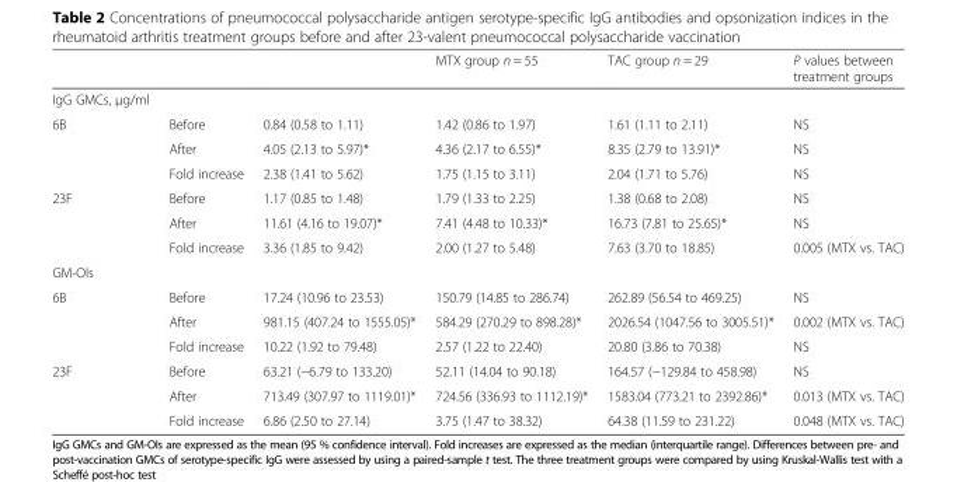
<table><thead><tr><td></td><td></td><td></td><td>MTX group n = 55</td><td>TAC group n = 29</td><td>P values between treatment groups</td></tr></thead><tbody><tr><td colspan="6">IgG GMCs, μg/ml</td></tr><tr><td rowspan="3">6B</td><td>Before</td><td>0.84 (0.58 to 1.11)</td><td>1.42 (0.86 to 1.97)</td><td>1.61 (1.11 to 2.11)</td><td>NS</td></tr><tr><td>After</td><td>4.05 (2.13 to 5.97)*</td><td>4.36 (2.17 to 6.55)*</td><td>8.35 (2.79 to 13.91)*</td><td>NS</td></tr><tr><td>Fold increase</td><td>2.38 (1.41 to 5.62)</td><td>1.75 (1.15 to 3.11)</td><td>2.04 (1.71 to 5.76)</td><td>NS</td></tr><tr><td rowspan="3">23F</td><td>Before</td><td>1.17 (0.85 to 1.48)</td><td>1.79 (1.33 to 2.25)</td><td>1.38 (0.68 to 2.08)</td><td>NS</td></tr><tr><td>After</td><td>11.61 (4.16 to 19.07)*</td><td>7.41 (4.48 to 10.33)*</td><td>16.73 (7.81 to 25.65)*</td><td>NS</td></tr><tr><td>Fold increase</td><td>3.36 (1.85 to 9.42)</td><td>2.00 (1.27 to 5.48)</td><td>7.63 (3.70 to 18.85)</td><td>0.005 (MTX vs. TAC)</td></tr><tr><td colspan="6">GM-OIs</td></tr><tr><td rowspan="3">6B</td><td>Before</td><td>17.24 (10.96 to 23.53)</td><td>150.79 (14.85 to 286.74)</td><td>262.89 (56.54 to 469.25)</td><td>NS</td></tr><tr><td>After</td><td>981.15 (407.24 to 1555.05)*</td><td>584.29 (270.29 to 898.28)*</td><td>2026.54 (1047.56 to 3005.51)*</td><td>0.002 (MTX vs. TAC)</td></tr><tr><td>Fold increase</td><td>10.22 (1.92 to 79.48)</td><td>2.57 (1.22 to 22.40)</td><td>20.80 (3.86 to 70.38)</td><td>NS</td></tr><tr><td rowspan="3">23F</td><td>Before</td><td>63.21 (−6.79 to 133.20)</td><td>52.11 (14.04 to 90.18)</td><td>164.57 (−129.84 to 458.98)</td><td>NS</td></tr><tr><td>After</td><td>713.49 (307.97 to 1119.01)*</td><td>724.56 (336.93 to 1112.19)*</td><td>1583.04 (773.21 to 2392.86)*</td><td>0.013 (MTX vs. TAC)</td></tr><tr><td>Fold increase</td><td>6.86 (2.50 to 27.14)</td><td>3.75 (1.47 to 38.32)</td><td>64.38 (11.59 to 231.22)</td><td>0.048 (MTX vs. TAC)</td></tr></tbody></table>